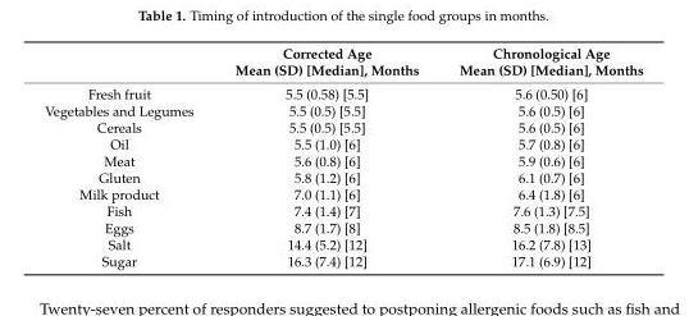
<table><thead><tr><td></td><td>Corrected Age Mean (SD) [Median], Months</td><td>Chronological Age Mean (SD) [Median], Months</td></tr></thead><tbody><tr><td>Fresh fruit</td><td>5.5 (0.58) [5.5]</td><td>5.6 (0.50) [6]</td></tr><tr><td>Vegetables and Legumes</td><td>5.5 (0.5) [5.5]</td><td>5.6 (0.5) [6]</td></tr><tr><td>Cereals</td><td>5.5 (0.5) [5.5]</td><td>5.6 (0.5) [6]</td></tr><tr><td>Oil</td><td>5.5 (1.0) [6]</td><td>5.7 (0.8) [6]</td></tr><tr><td>Meat</td><td>5.6 (0.8) [6]</td><td>5.9 (0.6) [6]</td></tr><tr><td>Gluten</td><td>5.8 (1.2) [6]</td><td>6.1 (0.7) [6]</td></tr><tr><td>Milk product</td><td>7.0 (1.1) [6]</td><td>6.4 (1.8) [6]</td></tr><tr><td>Fish</td><td>7.4 (1.4) [7]</td><td>7.6 (1.3) [7.5]</td></tr><tr><td>Eggs</td><td>8.7 (1.7) [8]</td><td>8.5 (1.8) [8.5]</td></tr><tr><td>Salt</td><td>14.4 (5.2) [12]</td><td>16.2 (7.8) [13]</td></tr><tr><td>Sugar</td><td>16.3 (7.4) [12]</td><td>17.1 (6.9) [12]</td></tr></tbody></table>